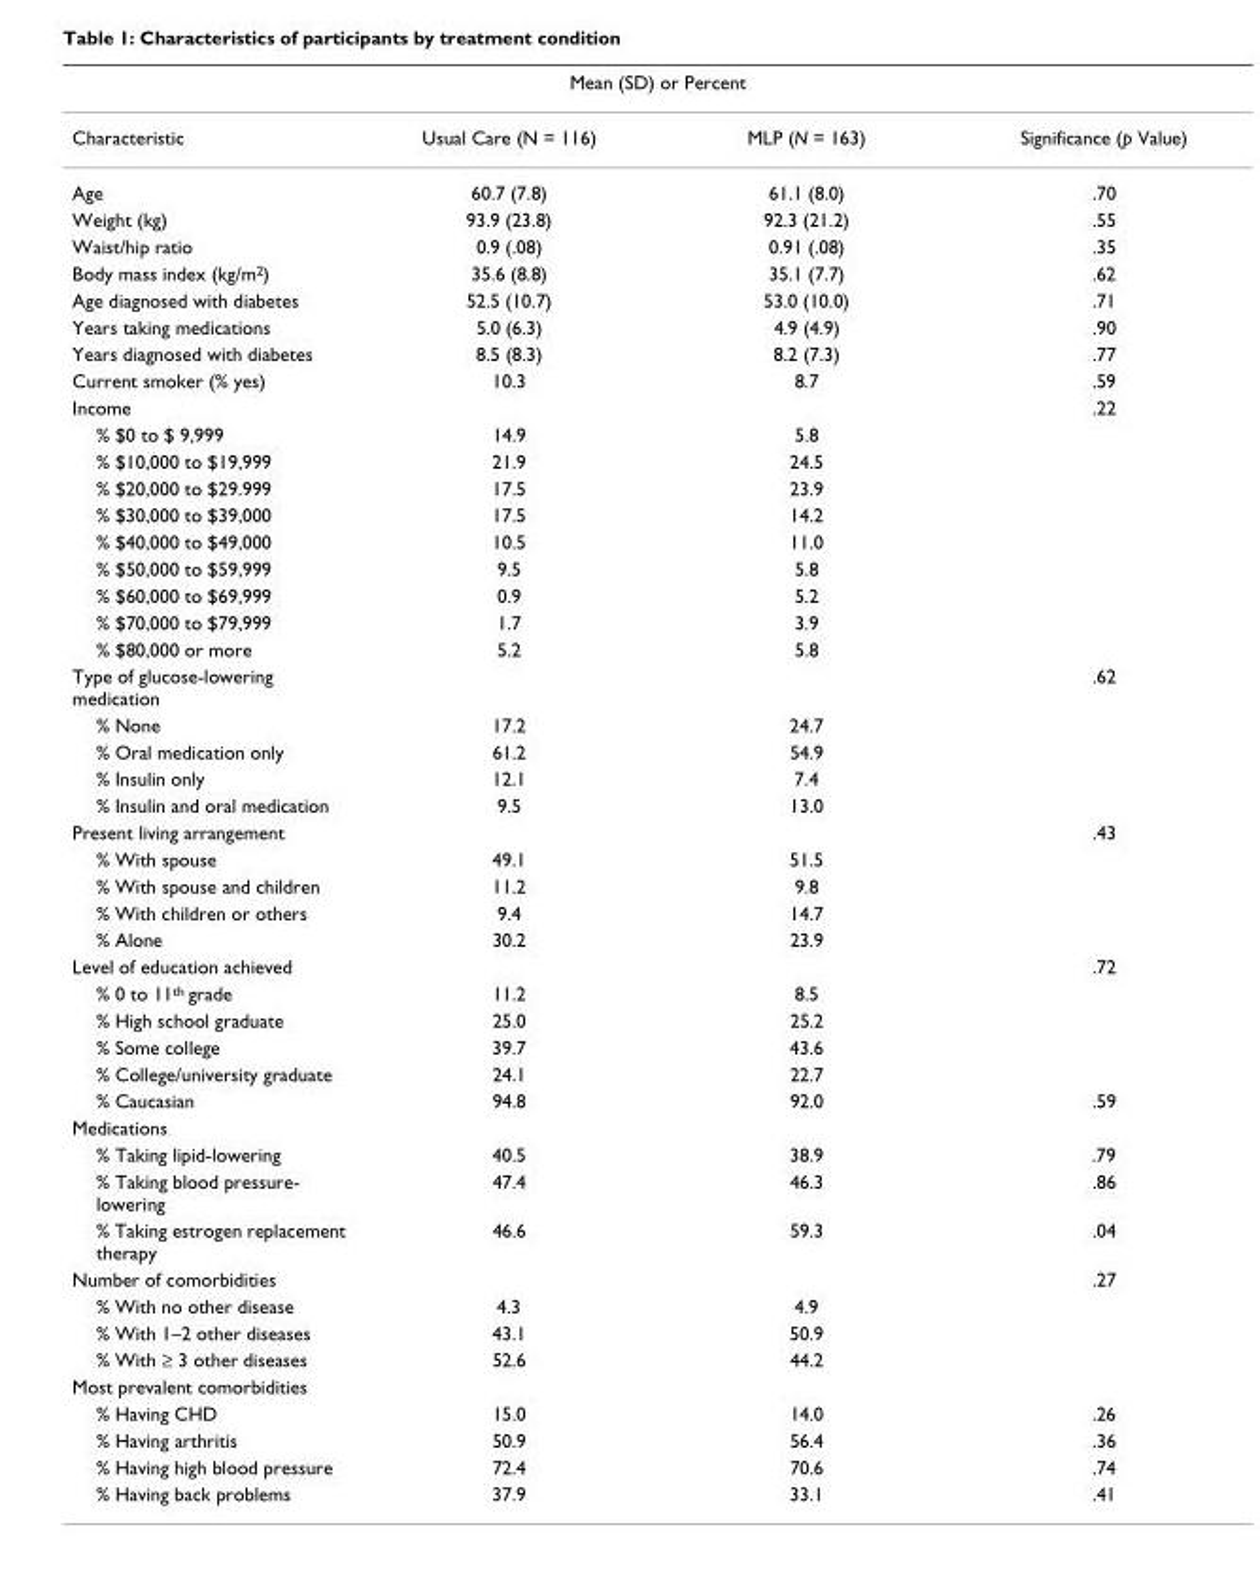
<table><thead><tr><td rowspan="2">Characteristic</td><td colspan="2">Mean (SD) or Percent</td><td rowspan="2">Significance (p Value)</td></tr><tr><td>Usual Care (N = 116)</td><td>MLP (N = 163)</td></tr></thead><tbody><tr><td>Age</td><td>60.7 (7.8)</td><td>61.1 (8.0)</td><td>.70</td></tr><tr><td>Weight (kg)</td><td>93.9 (23.8)</td><td>92.3 (21.2)</td><td>.55</td></tr><tr><td>Waist/hip ratio</td><td>0.9 (.08)</td><td>0.91 (.08)</td><td>.35</td></tr><tr><td>Body mass index (kg/m<sup>2</sup>)</td><td>35.6 (8.8)</td><td>35.1 (7.7)</td><td>.62</td></tr><tr><td>Age diagnosed with diabetes</td><td>52.5 (10.7)</td><td>53.0 (10.0)</td><td>.71</td></tr><tr><td>Years taking medications</td><td>5.0 (6.3)</td><td>4.9 (4.9)</td><td>.90</td></tr><tr><td>Years diagnosed with diabetes</td><td>8.5 (8.3)</td><td>8.2 (7.3)</td><td>.77</td></tr><tr><td>Current smoker (% yes)</td><td>10.3</td><td>8.7</td><td>.59</td></tr><tr><td>Income</td><td></td><td></td><td>.22</td></tr><tr><td>% $0 to $ 9,999</td><td>14.9</td><td>5.8</td><td></td></tr><tr><td>% $10,000 to $19,999</td><td>21.9</td><td>24.5</td><td></td></tr><tr><td>% $20,000 to $29.999</td><td>17.5</td><td>23.9</td><td></td></tr><tr><td>% $30,000 to $39,000</td><td>17.5</td><td>14.2</td><td></td></tr><tr><td>% $40,000 to $49,000</td><td>10.5</td><td>11.0</td><td></td></tr><tr><td>% $50,000 to $59,999</td><td>9.5</td><td>5.8</td><td></td></tr><tr><td>% $60,000 to $69,999</td><td>0.9</td><td>5.2</td><td></td></tr><tr><td>% $70,000 to $79,999</td><td>1.7</td><td>3.9</td><td></td></tr><tr><td>% $80,000 or more</td><td>5.2</td><td>5.8</td><td></td></tr><tr><td>Type of glucose-lowering medication</td><td></td><td></td><td>.62</td></tr><tr><td>% None</td><td>17.2</td><td>24.7</td><td></td></tr><tr><td>% Oral medication only</td><td>61.2</td><td>54.9</td><td></td></tr><tr><td>% Insulin only</td><td>12.1</td><td>7.4</td><td></td></tr><tr><td>% Insulin and oral medication</td><td>9.5</td><td>13.0</td><td></td></tr><tr><td>Present living arrangement</td><td></td><td></td><td>.43</td></tr><tr><td>% With spouse</td><td>49.1</td><td>51.5</td><td></td></tr><tr><td>% With spouse and children</td><td>11.2</td><td>9.8</td><td></td></tr><tr><td>% With children or others</td><td>9.4</td><td>14.7</td><td></td></tr><tr><td>% Alone</td><td>30.2</td><td>23.9</td><td></td></tr><tr><td>Level of education achieved</td><td></td><td></td><td>.72</td></tr><tr><td>% 0 to 11<sup>th</sup> grade</td><td>11.2</td><td>8.5</td><td></td></tr><tr><td>% High school graduate</td><td>25.0</td><td>25.2</td><td></td></tr><tr><td>% Some college</td><td>39.7</td><td>43.6</td><td></td></tr><tr><td>% College/university graduate</td><td>24.1</td><td>22.7</td><td></td></tr><tr><td>% Caucasian</td><td>94.8</td><td>92.0</td><td>.59</td></tr><tr><td colspan="4">Medications</td></tr><tr><td>% Taking lipid-lowering</td><td>40.5</td><td>38.9</td><td>.79</td></tr><tr><td>% Taking blood pressure- lowering</td><td>47.4</td><td>46.3</td><td>.86</td></tr><tr><td>% Taking estrogen replacement therapy</td><td>46.6</td><td>59.3</td><td>.04</td></tr><tr><td>Number of comorbidities</td><td></td><td></td><td>.27</td></tr><tr><td>% With no other disease</td><td>4.3</td><td>4.9</td><td></td></tr><tr><td>% With 1–2 other diseases</td><td>43.1</td><td>50.9</td><td></td></tr><tr><td>% With ≥ 3 other diseases</td><td>52.6</td><td>44.2</td><td></td></tr><tr><td colspan="4">Most prevalent comorbidities</td></tr><tr><td>% Having CHD</td><td>15.0</td><td>14.0</td><td>.26</td></tr><tr><td>% Having arthritis</td><td>50.9</td><td>56.4</td><td>.36</td></tr><tr><td>% Having high blood pressure</td><td>72.4</td><td>70.6</td><td>.74</td></tr><tr><td>% Having back problems</td><td>37.9</td><td>33.1</td><td>.41</td></tr></tbody></table>